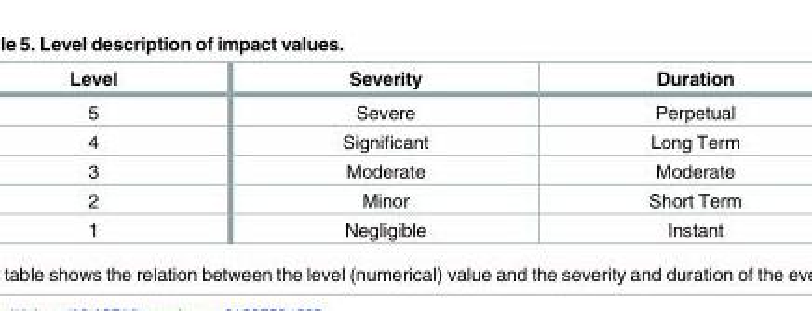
<table><thead><tr><td>Level</td><td>Severity</td><td>Duration</td></tr></thead><tbody><tr><td>5</td><td>Severe</td><td>Perpetual</td></tr><tr><td>4</td><td>Significant</td><td>Long Term</td></tr><tr><td>3</td><td>Moderate</td><td>Moderate</td></tr><tr><td>2</td><td>Minor</td><td>Short Term</td></tr><tr><td>1</td><td>Negligible</td><td>Instant</td></tr></tbody></table>